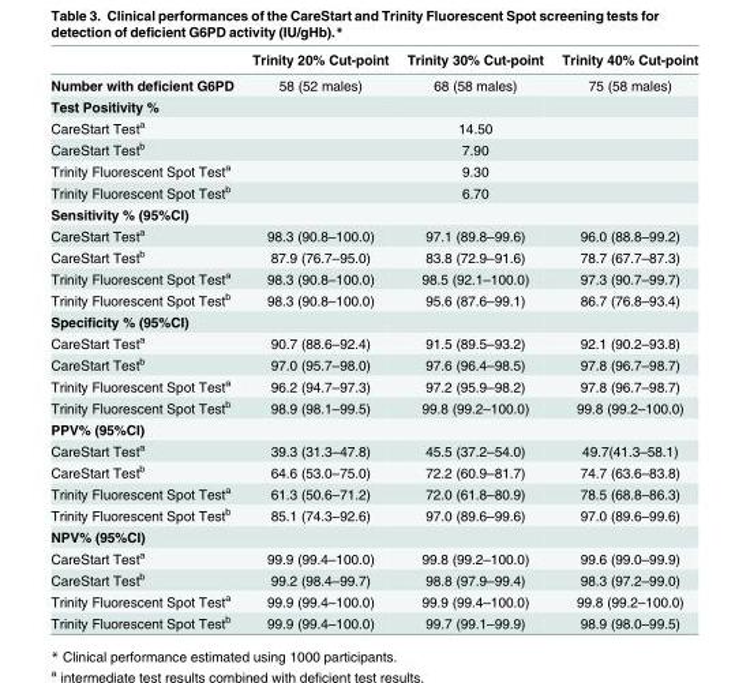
<table><thead><tr><td></td><td>Trinity 20% Cut-point</td><td>Trinity 30% Cut-point</td><td>Trinity 40% Cut-point</td></tr></thead><tbody><tr><td>Number with deficient G6PD</td><td>58 (52 males)</td><td>68 (58 males)</td><td>75 (58 males)</td></tr><tr><td colspan="4">Test Positivity %</td></tr><tr><td>CareStart Test<sup>a</sup></td><td colspan="3">14.50</td></tr><tr><td>CareStart Test<sup>b</sup></td><td colspan="3">7.90</td></tr><tr><td>Trinity Fluorescent Spot Test<sup>a</sup></td><td colspan="3">9.30</td></tr><tr><td>Trinity Fluorescent Spot Test<sup>b</sup></td><td colspan="3">6.70</td></tr><tr><td colspan="4">Sensitivity % (95%CI)</td></tr><tr><td>CareStart Test<sup>a</sup></td><td>98.3 (90.8–100.0)</td><td>97.1 (89.8–99.6)</td><td>96.0 (88.8–99.2)</td></tr><tr><td>CareStart Test<sup>b</sup></td><td>87.9 (76.7–95.0)</td><td>83.8 (72.9–91.6)</td><td>78.7 (67.7–87.3)</td></tr><tr><td>Trinity Fluorescent Spot Test<sup>a</sup></td><td>98.3 (90.8–100.0)</td><td>98.5 (92.1–100.0)</td><td>97.3 (90.7–99.7)</td></tr><tr><td>Trinity Fluorescent Spot Test<sup>b</sup></td><td>98.3 (90.8–100.0)</td><td>95.6 (87.6–99.1)</td><td>86.7 (76.8–93.4)</td></tr><tr><td colspan="4">Specificity % (95%CI)</td></tr><tr><td>CareStart Test<sup>a</sup></td><td>90.7 (88.6–92.4)</td><td>91.5 (89.5–93.2)</td><td>92.1 (90.2–93.8)</td></tr><tr><td>CareStart Test<sup>b</sup></td><td>97.0 (95.7–98.0)</td><td>97.6 (96.4–98.5)</td><td>97.8 (96.7–98.7)</td></tr><tr><td>Trinity Fluorescent Spot Test<sup>a</sup></td><td>96.2 (94.7–97.3)</td><td>97.2 (95.9–98.2)</td><td>97.8 (96.7–98.7)</td></tr><tr><td>Trinity Fluorescent Spot Test<sup>b</sup></td><td>98.9 (98.1–99.5)</td><td>99.8 (99.2–100.0)</td><td>99.8 (99.2–100.0)</td></tr><tr><td colspan="4">PPV% (95%CI)</td></tr><tr><td>CareStart Test<sup>a</sup></td><td>39.3 (31.3–47.8)</td><td>45.5 (37.2–54.0)</td><td>49.7(41.3–58.1)</td></tr><tr><td>CareStart Test<sup>b</sup></td><td>64.6 (53.0–75.0)</td><td>72.2 (60.9–81.7)</td><td>74.7 (63.6–83.8)</td></tr><tr><td>Trinity Fluorescent Spot Test<sup>a</sup></td><td>61.3 (50.6–71.2)</td><td>72.0 (61.8–80.9)</td><td>78.5 (68.8–86.3)</td></tr><tr><td>Trinity Fluorescent Spot Test<sup>b</sup></td><td>85.1 (74.3–92.6)</td><td>97.0 (89.6–99.6)</td><td>97.0 (89.6–99.6)</td></tr><tr><td colspan="4">NPV% (95%CI)</td></tr><tr><td>CareStart Test<sup>a</sup></td><td>99.9 (99.4–100.0)</td><td>99.8 (99.2–100.0)</td><td>99.6 (99.0–99.9)</td></tr><tr><td>CareStart Test<sup>b</sup></td><td>99.2 (98.4–99.7)</td><td>98.8 (97.9–99.4)</td><td>98.3 (97.2–99.0)</td></tr><tr><td>Trinity Fluorescent Spot Test<sup>a</sup></td><td>99.9 (99.4–100.0)</td><td>99.9 (99.4–100.0)</td><td>99.8 (99.2–100.0)</td></tr><tr><td>Trinity Fluorescent Spot Test<sup>b</sup></td><td>99.9 (99.4–100.0)</td><td>99.7 (99.1–99.9)</td><td>98.9 (98.0–99.5)</td></tr></tbody></table>